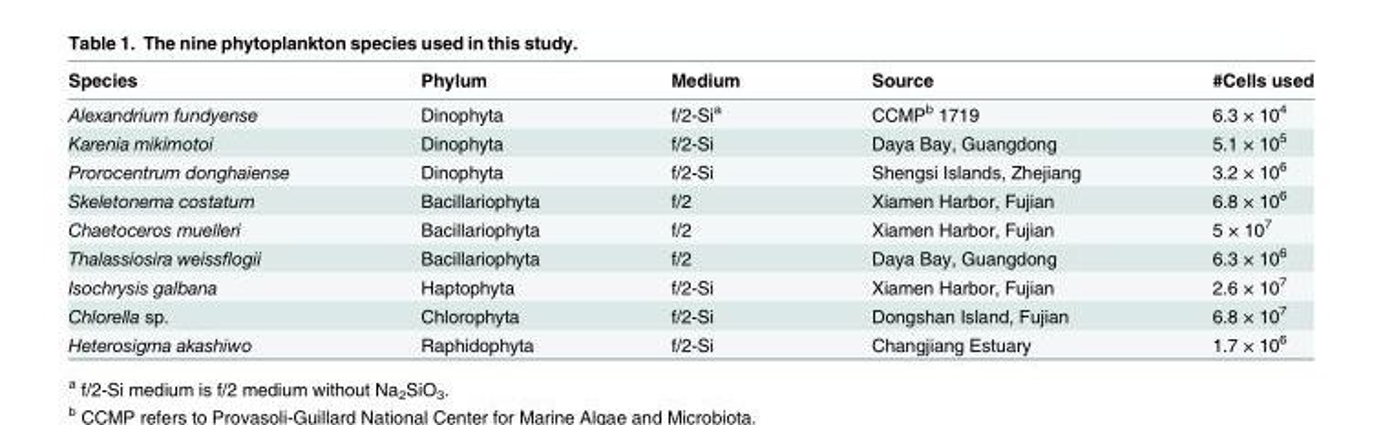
<table><thead><tr><td>Species</td><td>Phylum</td><td>Medium</td><td>Source</td><td>#Cells used</td></tr></thead><tbody><tr><td>Alexandrium fundyense</td><td>Dinophyta</td><td>f/2-Si<sup>a</sup></td><td>CCMP<sup>b</sup> 1719</td><td>6.3 × 10<sup>4</sup></td></tr><tr><td>Karenia mikimotoi</td><td>Dinophyta</td><td>f/2-Si</td><td>Daya Bay, Guangdong</td><td>5.1 × 10<sup>5</sup></td></tr><tr><td>Prorocentrum donghaiense</td><td>Dinophyta</td><td>f/2-Si</td><td>Shengsi Islands, Zhejiang</td><td>3.2 × 10<sup>6</sup></td></tr><tr><td>Skeletonema costatum</td><td>Bacillariophyta</td><td>f/2</td><td>Xiamen Harbor, Fujian</td><td>6.8 × 10<sup>6</sup></td></tr><tr><td>Chaetoceros muelleri</td><td>Bacillariophyta</td><td>f/2</td><td>Xiamen Harbor, Fujian</td><td>5 × 10<sup>7</sup></td></tr><tr><td>Thalassiosira weissflogii</td><td>Bacillariophyta</td><td>f/2</td><td>Daya Bay, Guangdong</td><td>6.3 × 10<sup>6</sup></td></tr><tr><td>Isochrysis galbana</td><td>Haptophyta</td><td>f/2-Si</td><td>Xiamen Harbor, Fujian</td><td>2.6 × 10<sup>7</sup></td></tr><tr><td>Chlorella sp.</td><td>Chlorophyta</td><td>f/2-Si</td><td>Dongshan Island, Fujian</td><td>6.8 × 10<sup>7</sup></td></tr><tr><td>Heterosigma akashiwo</td><td>Raphidophyta</td><td>f/2-Si</td><td>Changjiang Estuary</td><td>1.7 × 10<sup>6</sup></td></tr></tbody></table>